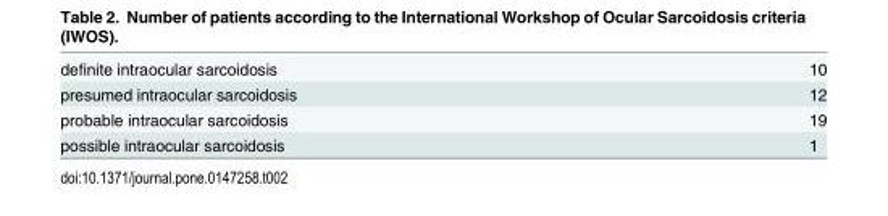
<table><tbody><tr><td>definite intraocular sarcoidosis</td><td>10</td></tr><tr><td>presumed intraocular sarcoidosis</td><td>12</td></tr><tr><td>probable intraocular sarcoidosis</td><td>19</td></tr><tr><td>possible intraocular sarcoidosis</td><td>1</td></tr></tbody></table>